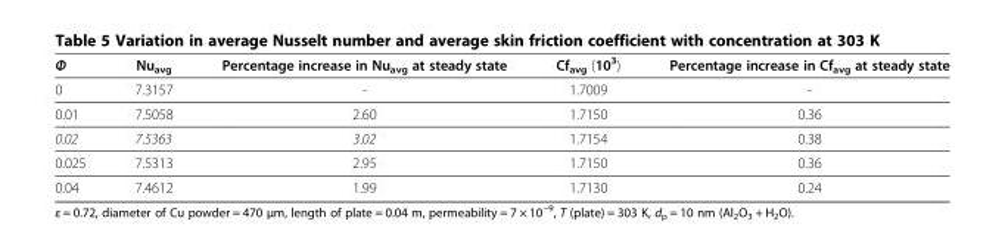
<table><thead><tr><td>Φ</td><td>Nu<sub>avg</sub></td><td>Percentage increase in Nu<sub>avg</sub> at steady state</td><td>Cf<sub>avg</sub> (10<sup>3</sup>)</td><td>Percentage increase in Cf<sub>avg</sub> at steady state</td></tr></thead><tbody><tr><td>0</td><td>7.3157</td><td>-</td><td>1.7009</td><td>-</td></tr><tr><td>0.01</td><td>7.5058</td><td>2.60</td><td>1.7150</td><td>0.36</td></tr><tr><td>0.02</td><td>7.5363</td><td>3.02</td><td>1.7154</td><td>0.38</td></tr><tr><td>0.025</td><td>7.5313</td><td>2.95</td><td>1.7150</td><td>0.36</td></tr><tr><td>0.04</td><td>7.4612</td><td>1.99</td><td>1.7130</td><td>0.24</td></tr></tbody></table>